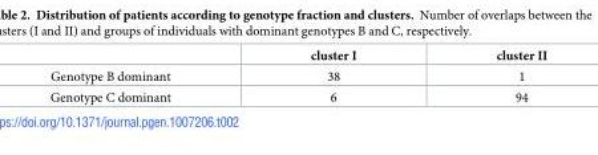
<table><thead><tr><td></td><td>cluster I</td><td>cluster II</td></tr></thead><tbody><tr><td>Genotype B dominant</td><td>38</td><td>1</td></tr><tr><td>Genotype C dominant</td><td>6</td><td>94</td></tr></tbody></table>